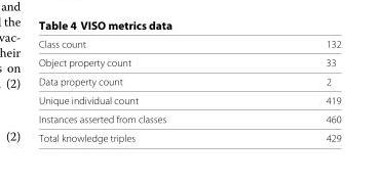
<table><thead><tr><td>Class count</td><td>132</td></tr></thead><tbody><tr><td>Object property count</td><td>33</td></tr><tr><td>Data property count</td><td>2</td></tr><tr><td>Unique individual count</td><td>419</td></tr><tr><td>Instances asserted from classes</td><td>460</td></tr><tr><td>Total knowledge triples</td><td>429</td></tr></tbody></table>